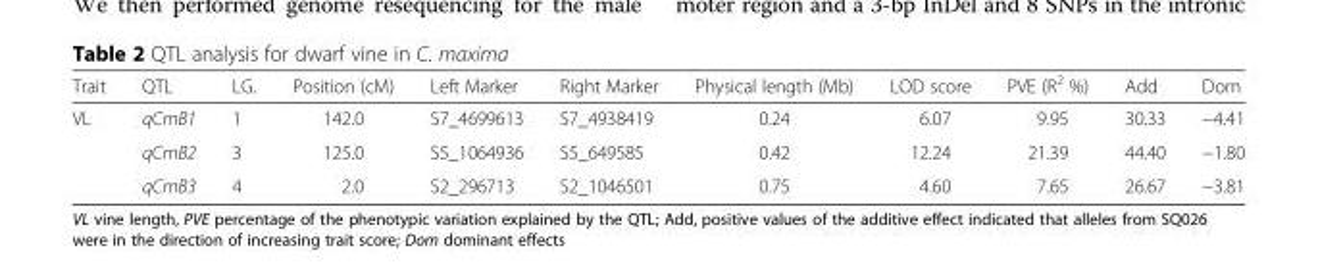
<table><thead><tr><td>Trait</td><td>QTL</td><td>LG.</td><td>Position (cM)</td><td>Left Marker</td><td>Right Marker</td><td>Physical length (Mb)</td><td>LOD score</td><td>PVE (R<sup>2</sup> %)</td><td>Add</td><td>Dom</td></tr></thead><tbody><tr><td rowspan="3">VL</td><td>qCmB1</td><td>1</td><td>142.0</td><td>S7_4699613</td><td>S7_4938419</td><td>0.24</td><td>6.07</td><td>9.95</td><td>30.33</td><td>−4.41</td></tr><tr><td>qCmB2</td><td>3</td><td>125.0</td><td>S5_1064936</td><td>S5_649585</td><td>0.42</td><td>12.24</td><td>21.39</td><td>44.40</td><td>−1.80</td></tr><tr><td>qCmB3</td><td>4</td><td>2.0</td><td>S2_296713</td><td>S2_1046501</td><td>0.75</td><td>4.60</td><td>7.65</td><td>26.67</td><td>−3.81</td></tr></tbody></table>